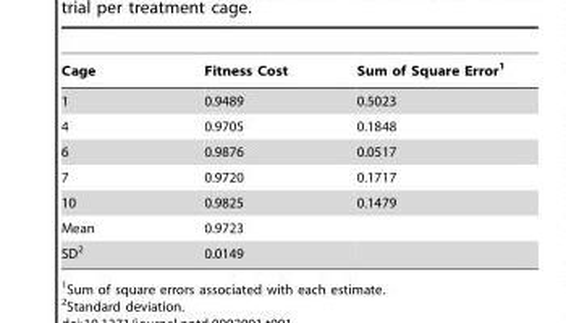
<table><thead><tr><td>Cage</td><td>Fitness Cost</td><td>Sum of Square Error<sup>1</sup></td></tr></thead><tbody><tr><td>1</td><td>0.9489</td><td>0.5023</td></tr><tr><td>4</td><td>0.9705</td><td>0.1848</td></tr><tr><td>6</td><td>0.9876</td><td>0.0517</td></tr><tr><td>7</td><td>0.9720</td><td>0.1717</td></tr><tr><td>10</td><td>0.9825</td><td>0.1479</td></tr><tr><td>Mean</td><td>0.9723</td><td></td></tr><tr><td>SD<sup>2</sup></td><td>0.0149</td><td></td></tr></tbody></table>